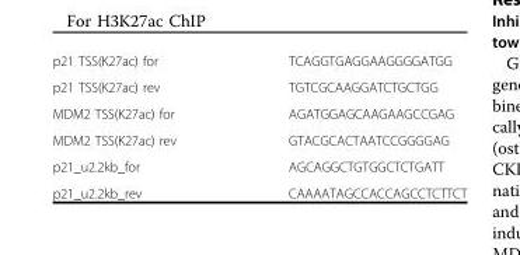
<table><tbody><tr><td>p21 TSS(K27ac) for</td><td>TCAGGTGAGGAAGGGGATGG</td></tr><tr><td>p21 TSS(K27ac) rev</td><td>TGTCGCAAGGATCTGCTGG</td></tr><tr><td>MDM2 TSS(K27ac) for</td><td>AGATGGAGCAAGAAGCCGAG</td></tr><tr><td>MDM2 TSS(K27ac) rev</td><td>GTACGCACTAATCCGGGGAG</td></tr><tr><td>p21_u2.2kb_for</td><td>AGCAGGCTGTGGCTCTGATT</td></tr><tr><td>p21_u2.2kb_rev</td><td>CAAAATAGCCACCAGCCTCTTCT</td></tr></tbody></table>